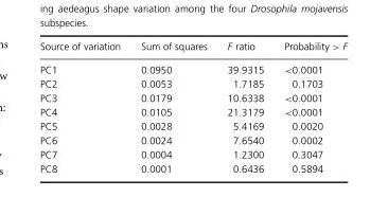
<table><thead><tr><td>Source of variation</td><td>Sum of squares</td><td>F ratio</td><td>Probability &gt; F</td></tr></thead><tbody><tr><td>PC1</td><td>0.0950</td><td>39.9315</td><td>&lt;0.0001</td></tr><tr><td>PC2</td><td>0.0053</td><td>1.7185</td><td>0.1703</td></tr><tr><td>PC3</td><td>0.0179</td><td>10.6338</td><td>&lt;0.0001</td></tr><tr><td>PC4</td><td>0.0105</td><td>21.3179</td><td>&lt;0.0001</td></tr><tr><td>PC5</td><td>0.0028</td><td>5.4169</td><td>0.0020</td></tr><tr><td>PC6</td><td>0.0024</td><td>7.6540</td><td>0.0002</td></tr><tr><td>PC7</td><td>0.0004</td><td>1.2300</td><td>0.3047</td></tr><tr><td>PC8</td><td>0.0001</td><td>0.6436</td><td>0.5894</td></tr></tbody></table>